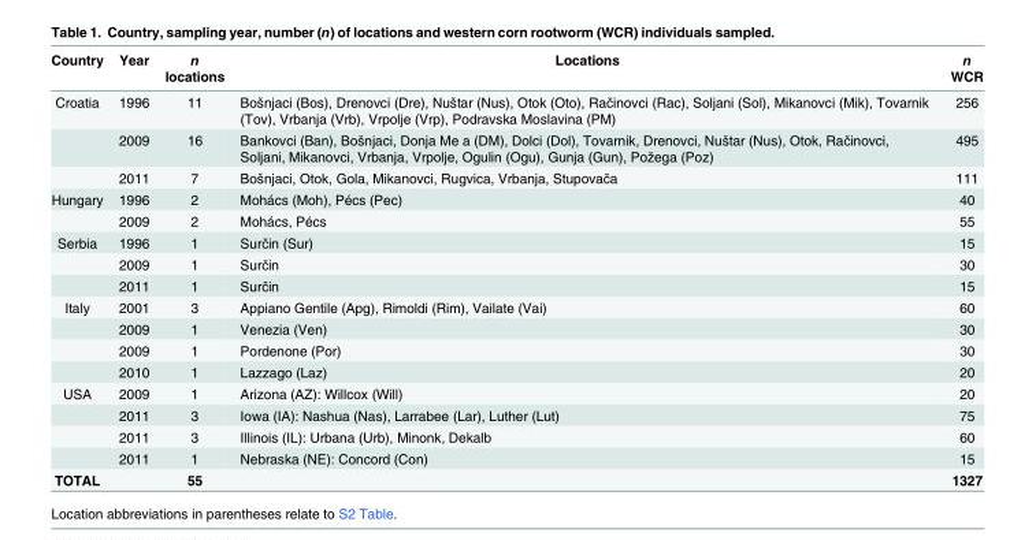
<table><thead><tr><td>Country</td><td>Year</td><td>n locations</td><td>Locations</td><td>n WCR</td></tr></thead><tbody><tr><td rowspan="3">Croatia</td><td>1996</td><td>11</td><td>Bošnjaci (Bos), Drenovci (Dre), Nuštar (Nus), Otok (Oto), Račinovci (Rac), Soljani (Sol), Mikanovci (Mik), Tovarnik (Tov), Vrbanja (Vrb), Vrpolje (Vrp), Podravska Moslavina (PM)</td><td>256</td></tr><tr><td>2009</td><td>16</td><td>Bankovci (Ban), Bošnjaci, Donja Međa (DM), Dolci (Dol), Tovarnik, Drenovci, Nuštar (Nus), Otok, Račinovci, Soljani, Mikanovci, Vrbanja, Vrpolje, Ogulin (Ogu), Gunja (Gun), Požega (Poz)</td><td>495</td></tr><tr><td>2011</td><td>7</td><td>Bošnjaci, Otok, Gola, Mikanovci, Rugvica, Vrbanja, Stupovača</td><td>111</td></tr><tr><td rowspan="2">Hungary</td><td>1996</td><td>2</td><td>Mohács (Moh), Pécs (Pec)</td><td>40</td></tr><tr><td>2009</td><td>2</td><td>Mohács, Pécs</td><td>55</td></tr><tr><td rowspan="3">Serbia</td><td>1996</td><td>1</td><td>Surčin (Sur)</td><td>15</td></tr><tr><td>2009</td><td>1</td><td>Surčin</td><td>30</td></tr><tr><td>2011</td><td>1</td><td>Surčin</td><td>15</td></tr><tr><td rowspan="4">Italy</td><td>2001</td><td>3</td><td>Appiano Gentile (Apg), Rimoldi (Rim), Vailate (Vai)</td><td>60</td></tr><tr><td>2009</td><td>1</td><td>Venezia (Ven)</td><td>30</td></tr><tr><td>2009</td><td>1</td><td>Pordenone (Por)</td><td>30</td></tr><tr><td>2010</td><td>1</td><td>Lazzago (Laz)</td><td>20</td></tr><tr><td rowspan="4">USA</td><td>2009</td><td>1</td><td>Arizona (AZ): Willcox (Will)</td><td>20</td></tr><tr><td>2011</td><td>3</td><td>Iowa (IA): Nashua (Nas), Larrabee (Lar), Luther (Lut)</td><td>75</td></tr><tr><td>2011</td><td>3</td><td>Illinois (IL): Urbana (Urb), Minonk, Dekalb</td><td>60</td></tr><tr><td>2011</td><td>1</td><td>Nebraska (NE): Concord (Con)</td><td>15</td></tr><tr><td>TOTAL</td><td></td><td>55</td><td></td><td>1327</td></tr></tbody></table>